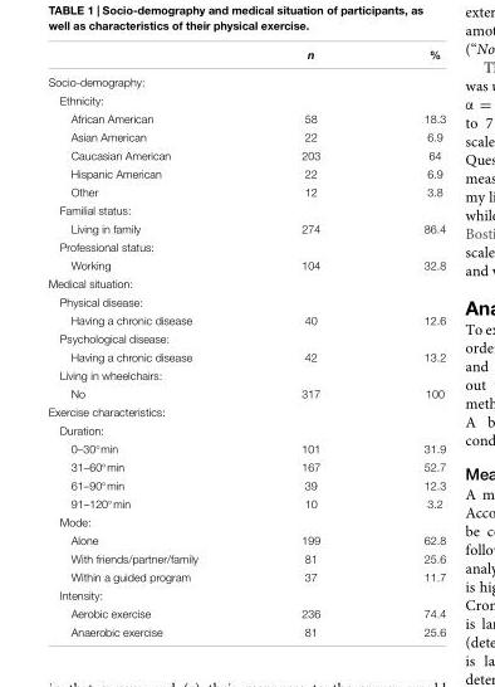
<table><thead><tr><td></td><td>n</td><td>%</td></tr></thead><tbody><tr><td colspan="3">Socio-demography:</td></tr><tr><td colspan="3">Ethnicity:</td></tr><tr><td>African American</td><td>58</td><td>18.3</td></tr><tr><td>Asian American</td><td>22</td><td>6.9</td></tr><tr><td>Caucasian American</td><td>203</td><td>64</td></tr><tr><td>Hispanic American</td><td>22</td><td>6.9</td></tr><tr><td>Other</td><td>12</td><td>3.8</td></tr><tr><td colspan="3">Familial status:</td></tr><tr><td>Living in family</td><td>274</td><td>86.4</td></tr><tr><td colspan="3">Professional status:</td></tr><tr><td>Working</td><td>104</td><td>32.8</td></tr><tr><td colspan="3">Medical situation:</td></tr><tr><td colspan="3">Physical disease:</td></tr><tr><td>Having a chronic disease</td><td>40</td><td>12.6</td></tr><tr><td colspan="3">Psychological disease:</td></tr><tr><td>Having a chronic disease</td><td>42</td><td>13.2</td></tr><tr><td colspan="3">Living in wheelchairs:</td></tr><tr><td>No</td><td>317</td><td>100</td></tr><tr><td colspan="3">Exercise characteristics:</td></tr><tr><td colspan="3">Duration:</td></tr><tr><td>0–30◦min</td><td>101</td><td>31.9</td></tr><tr><td>31–60◦min</td><td>167</td><td>52.7</td></tr><tr><td>61–90◦min</td><td>39</td><td>12.3</td></tr><tr><td>91–120◦min</td><td>10</td><td>3.2</td></tr><tr><td colspan="3">Mode:</td></tr><tr><td>Alone</td><td>199</td><td>62.8</td></tr><tr><td>With friends/partner/family</td><td>81</td><td>25.6</td></tr><tr><td>Within a guided program</td><td>37</td><td>11.7</td></tr><tr><td colspan="3">Intensity:</td></tr><tr><td>Aerobic exercise</td><td>236</td><td>74.4</td></tr><tr><td>Anaerobic exercise</td><td>81</td><td>25.6</td></tr></tbody></table>